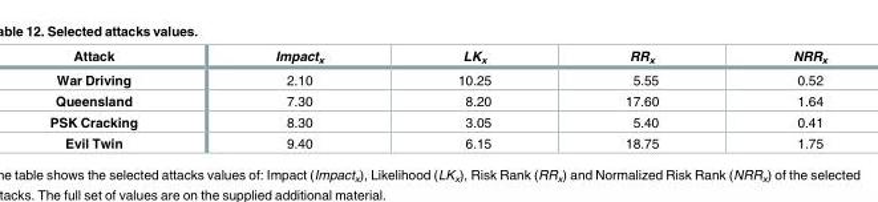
<table><thead><tr><td>Attack</td><td>Impact<sub>x</sub></td><td>LK<sub>x</sub></td><td>RR<sub>x</sub></td><td>NRR<sub>x</sub></td></tr></thead><tbody><tr><td>War Driving</td><td>2.10</td><td>10.25</td><td>5.55</td><td>0.52</td></tr><tr><td>Queensland</td><td>7.30</td><td>8.20</td><td>17.60</td><td>1.64</td></tr><tr><td>PSK Cracking</td><td>8.30</td><td>3.05</td><td>5.40</td><td>0.41</td></tr><tr><td>Evil Twin</td><td>9.40</td><td>6.15</td><td>18.75</td><td>1.75</td></tr></tbody></table>